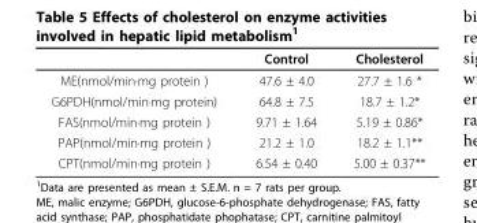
<table><thead><tr><td></td><td>Control</td><td>Cholesterol</td></tr></thead><tbody><tr><td>ME(nmol/min·mg protein )</td><td>47.6 ± 4.0</td><td>27.7 ± 1.6 *</td></tr><tr><td>G6PDH(nmol/min·mg protein)</td><td>64.8 ± 7.5</td><td>18.7 ± 1.2*</td></tr><tr><td>FAS(nmol/min·mg protein )</td><td>9.71 ± 1.64</td><td>5.19 ± 0.86*</td></tr><tr><td>PAP(nmol/min·mg protein )</td><td>21.2 ± 1.0</td><td>18.2 ± 1.1**</td></tr><tr><td>CPT(nmol/min·mg protein )</td><td>6.54 ± 0.40</td><td>5.00 ± 0.37**</td></tr></tbody></table>